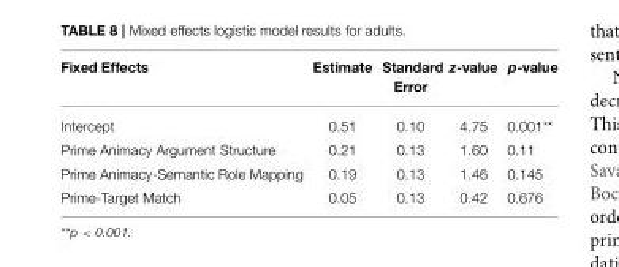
<table><thead><tr><td>Fixed Effects</td><td>Estimate</td><td>Standard Error</td><td>z-value</td><td>p-value</td></tr></thead><tbody><tr><td>Intercept</td><td>0.51</td><td>0.10</td><td>4.75</td><td>0.001**</td></tr><tr><td>Prime Animacy Argument Structure</td><td>0.21</td><td>0.13</td><td>1.60</td><td>0.11</td></tr><tr><td>Prime Animacy-Semantic Role Mapping</td><td>0.19</td><td>0.13</td><td>1.46</td><td>0.145</td></tr><tr><td>Prime-Target Match</td><td>0.05</td><td>0.13</td><td>0.42</td><td>0.676</td></tr></tbody></table>